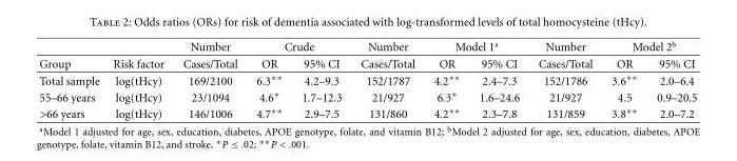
<table><thead><tr><td rowspan="2">Group</td><td rowspan="2">Risk factor</td><td rowspan="2">Number Cases/Total</td><td colspan="2">Crude</td><td rowspan="2">Number Cases/Total</td><td colspan="2">Model 1a</td><td rowspan="2">Number Cases/Total</td><td colspan="2">Model 2b</td></tr><tr><td>OR</td><td>95% CI</td><td>OR</td><td>95% CI</td><td>OR</td><td>95% CI</td></tr></thead><tbody><tr><td>Total sample</td><td>log(tHcy)</td><td>169/2100</td><td>6.3∗∗</td><td>4.2–9.3</td><td>152/1787</td><td>4.2∗∗</td><td>2.4–7.3</td><td>152/1786</td><td>3.6∗∗</td><td>2.0–6.4</td></tr><tr><td>55–66 years</td><td>log(tHcy)</td><td>23/1094</td><td>4.6∗</td><td>1.7–12.3</td><td>21/927</td><td>6.3∗</td><td>1.6–24.6</td><td>21/927</td><td>4.5</td><td>0.9–20.5</td></tr><tr><td>&gt;66 years</td><td>log(tHcy)</td><td>146/1006</td><td>4.7∗∗</td><td>2.9–7.5</td><td>131/860</td><td>4.2∗∗</td><td>2.3–7.8</td><td>131/859</td><td>3.8∗∗</td><td>2.0–7.2</td></tr></tbody></table>